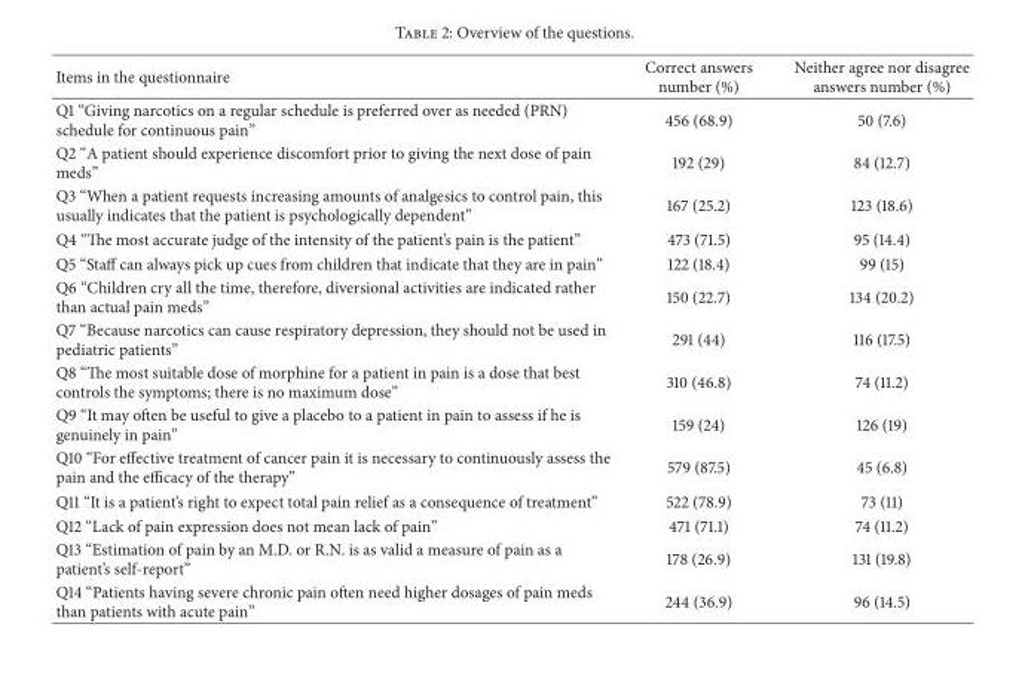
<table><thead><tr><td>Items in the questionnaire</td><td>Correct answers number (%)</td><td>Neither agree nor disagree answers number (%)</td></tr></thead><tbody><tr><td>Q1 “Giving narcotics on a regular schedule is preferred over as needed (PRN) schedule for continuous pain”</td><td>456 (68.9)</td><td>50 (7.6)</td></tr><tr><td>Q2 “A patient should experience discomfort prior to giving the next dose of pain meds”</td><td>192 (29)</td><td>84 (12.7)</td></tr><tr><td>Q3 “When a patient requests increasing amounts of analgesics to control pain, this usually indicates that the patient is psychologically dependent”</td><td>167 (25.2)</td><td>123 (18.6)</td></tr><tr><td>Q4 “The most accurate judge of the intensity of the patient’s pain is the patient”</td><td>473 (71.5)</td><td>95 (14.4)</td></tr><tr><td>Q5 “Staff can always pick up cues from children that indicate that they are in pain”</td><td>122 (18.4)</td><td>99 (15)</td></tr><tr><td>Q6 “Children cry all the time, therefore, diversional activities are indicated rather than actual pain meds”</td><td>150 (22.7)</td><td>134 (20.2)</td></tr><tr><td>Q7 “Because narcotics can cause respiratory depression, they should not be used in pediatric patients”</td><td>291 (44)</td><td>116 (17.5)</td></tr><tr><td>Q8 “The most suitable dose of morphine for a patient in pain is a dose that best controls the symptoms; there is no maximum dose”</td><td>310 (46.8)</td><td>74 (11.2)</td></tr><tr><td>Q9 “It may often be useful to give a placebo to a patient in pain to assess if he is genuinely in pain”</td><td>159 (24)</td><td>126 (19)</td></tr><tr><td>Q10 “For effective treatment of cancer pain it is necessary to continuously assess the pain and the efficacy of the therapy”</td><td>579 (87.5)</td><td>45 (6.8)</td></tr><tr><td>Q11 “It is a patient’s right to expect total pain relief as a consequence of treatment”</td><td>522 (78.9)</td><td>73 (11)</td></tr><tr><td>Q12 “Lack of pain expression does not mean lack of pain”</td><td>471 (71.1)</td><td>74 (11.2)</td></tr><tr><td>Q13 “Estimation of pain by an M.D. or R.N. is as valid a measure of pain as a patient’s self-report”</td><td>178 (26.9)</td><td>131 (19.8)</td></tr><tr><td>Q14 “Patients having severe chronic pain often need higher dosages of pain meds than patients with acute pain”</td><td>244 (36.9)</td><td>96 (14.5)</td></tr></tbody></table>